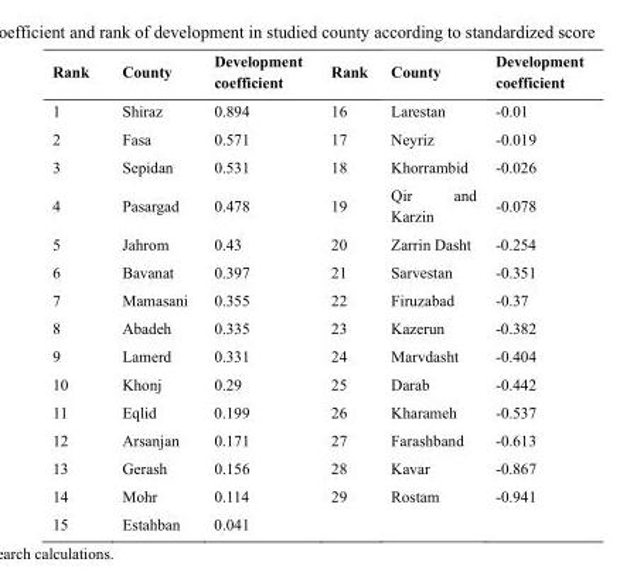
<table><thead><tr><td>Rank</td><td>County</td><td>Development coefficient</td><td>Rank</td><td>County</td><td>Development coefficient</td></tr></thead><tbody><tr><td>1</td><td>Shiraz</td><td>0.894</td><td>16</td><td>Larestan</td><td>-0.01</td></tr><tr><td>2</td><td>Fasa</td><td>0.571</td><td>17</td><td>Neyriz</td><td>-0.019</td></tr><tr><td>3</td><td>Sepidan</td><td>0.531</td><td>18</td><td>Khorrambid</td><td>-0.026</td></tr><tr><td>4</td><td>Pasargad</td><td>0.478</td><td>19</td><td>Qir and Karzin</td><td>-0.078</td></tr><tr><td>5</td><td>Jahrom</td><td>0.43</td><td>20</td><td>Zarrin Dasht</td><td>-0.254</td></tr><tr><td>6</td><td>Bavanat</td><td>0.397</td><td>21</td><td>Sarvestan</td><td>-0.351</td></tr><tr><td>7</td><td>Mamasani</td><td>0.355</td><td>22</td><td>Firuzabad</td><td>-0.37</td></tr><tr><td>8</td><td>Abadeh</td><td>0.335</td><td>23</td><td>Kazerun</td><td>-0.382</td></tr><tr><td>9</td><td>Lamerd</td><td>0.331</td><td>24</td><td>Marvdasht</td><td>-0.404</td></tr><tr><td>10</td><td>Khonj</td><td>0.29</td><td>25</td><td>Darab</td><td>-0.442</td></tr><tr><td>11</td><td>Eqlid</td><td>0.199</td><td>26</td><td>Kharameh</td><td>-0.537</td></tr><tr><td>12</td><td>Arsanjan</td><td>0.171</td><td>27</td><td>Farashband</td><td>-0.613</td></tr><tr><td>13</td><td>Gerash</td><td>0.156</td><td>28</td><td>Kavar</td><td>-0.867</td></tr><tr><td>14</td><td>Mohr</td><td>0.114</td><td>29</td><td>Rostam</td><td>-0.941</td></tr><tr><td>15</td><td>Estahban</td><td>0.041</td><td></td><td></td><td></td></tr></tbody></table>